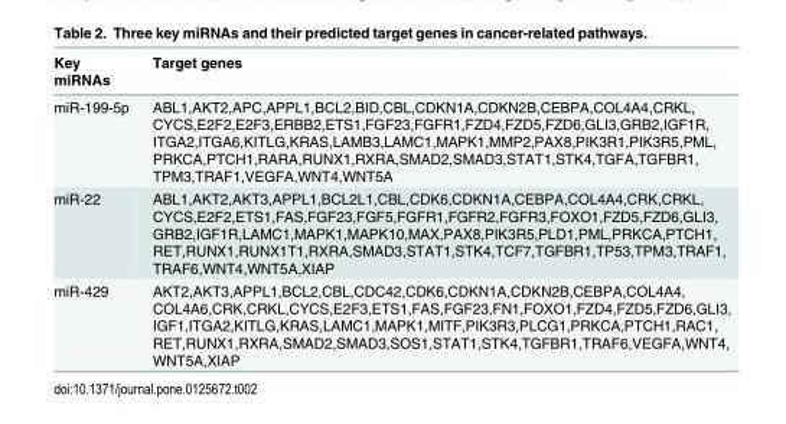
<table><thead><tr><td>Key miRNAs</td><td>Target genes</td></tr></thead><tbody><tr><td>miR-199-5p</td><td>ABL1,AKT2,APC,APPL1,BCL2,BID,CBL,CDKN1A,CDKN2B,CEBPA,COL4A4,CRKL, CYCS,E2F2,E2F3,ERBB2,ETS1,FGF23,FGFR1,FZD4,FZD5,FZD6,GLI3,GRB2,IGF1R, ITGA2,ITGA6,KITLG,KRAS,LAMB3,LAMC1,MAPK1,MMP2,PAX8,PIK3R1,PIK3R5,PML, PRKCA,PTCH1,RARA,RUNX1,RXRA,SMAD2,SMAD3,STAT1,STK4,TGFA,TGFBR1, TPM3,TRAF1,VEGFA,WNT4,WNT5A</td></tr><tr><td>miR-22</td><td>ABL1,AKT2,AKT3,APPL1,BCL2L1,CBL,CDK6,CDKN1A,CEBPA,COL4A4,CRK,CRKL, CYCS,E2F2,ETS1,FAS,FGF23,FGF5,FGFR1,FGFR2,FGFR3,FOXO1,FZD5,FZD6,GLI3, GRB2,IGF1R,LAMC1,MAPK1,MAPK10,MAX,PAX8,PIK3R5,PLD1,PML,PRKCA,PTCH1, RET,RUNX1,RUNX1T1,RXRA,SMAD3,STAT1,STK4,TCF7,TGFBR1,TP53,TPM3,TRAF1, TRAF6,WNT4,WNT5A,XIAP</td></tr><tr><td>miR-429</td><td>AKT2,AKT3,APPL1,BCL2,CBL,CDC42,CDK6,CDKN1A,CDKN2B,CEBPA,COL4A4, COL4A6,CRK,CRKL,CYCS,E2F3,ETS1,FAS,FGF23,FN1,FOXO1,FZD4,FZD5,FZD6,GLI3, IGF1,ITGA2,KITLG,KRAS,LAMC1,MAPK1,MITF,PIK3R3,PLCG1,PRKCA,PTCH1,RAC1, RET,RUNX1,RXRA,SMAD2,SMAD3,SOS1,STAT1,STK4,TGFBR1,TRAF6,VEGFA,WNT4, WNT5A,XIAP</td></tr></tbody></table>